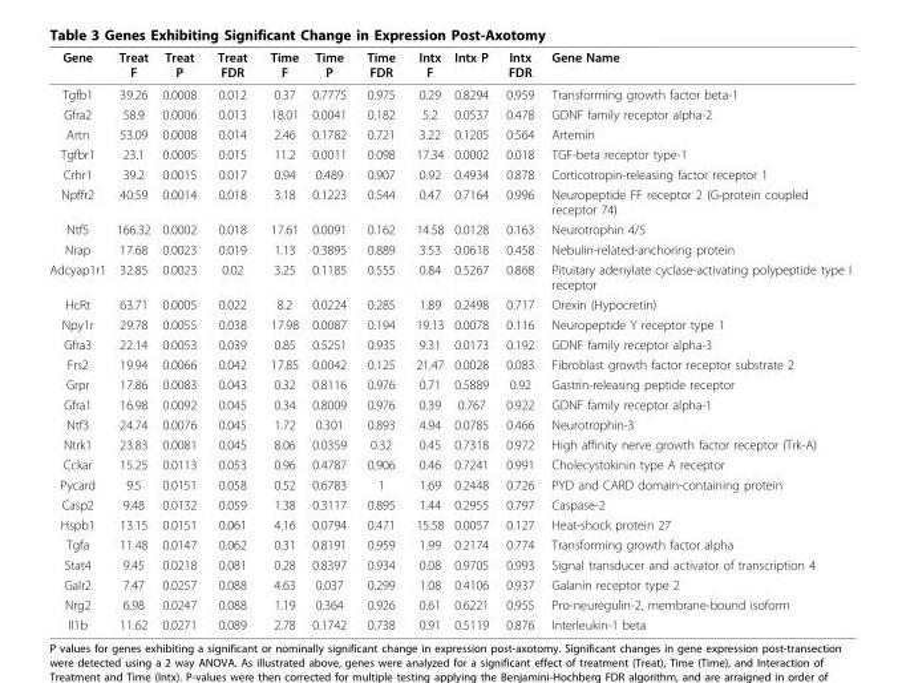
<table><thead><tr><td>Gene</td><td>Treat F</td><td>Treat P</td><td>Treat FDR</td><td>Time F</td><td>Time P</td><td>Time FDR</td><td>Intx F</td><td>Intx P</td><td>Intx FDR</td><td>Gene Name</td></tr></thead><tbody><tr><td>Tgfb1</td><td>39.26</td><td>0.0008</td><td>0.012</td><td>0.37</td><td>0.7775</td><td>0.975</td><td>0.29</td><td>0.8294</td><td>0.959</td><td>Transforming growth factor beta-1</td></tr><tr><td>Gfra2</td><td>58.9</td><td>0.0006</td><td>0.013</td><td>18.01</td><td>0.0041</td><td>0.182</td><td>5.2</td><td>0.0537</td><td>0.478</td><td>GDNF family receptor alpha-2</td></tr><tr><td>Artn</td><td>53.09</td><td>0.0008</td><td>0.014</td><td>2.46</td><td>0.1782</td><td>0.721</td><td>3.22</td><td>0.1205</td><td>0.564</td><td>Artemin</td></tr><tr><td>Tgfbr1</td><td>23.1</td><td>0.0005</td><td>0.015</td><td>11.2</td><td>0.0011</td><td>0.098</td><td>17.34</td><td>0.0002</td><td>0.018</td><td>TGF-beta receptor type-1</td></tr><tr><td>Crhr1</td><td>39.2</td><td>0.0015</td><td>0.017</td><td>0.94</td><td>0.489</td><td>0.907</td><td>0.92</td><td>0.4934</td><td>0.878</td><td>Corticotropin-releasing factor receptor 1</td></tr><tr><td>Npffr2</td><td>40.59</td><td>0.0014</td><td>0.018</td><td>3.18</td><td>0.1223</td><td>0.544</td><td>0.47</td><td>0.7164</td><td>0.996</td><td>Neuropeptide FF receptor 2 (G-protein coupled receptor 74)</td></tr><tr><td>Ntf5</td><td>166.32</td><td>0.0002</td><td>0.018</td><td>17.61</td><td>0.0091</td><td>0.162</td><td>14.58</td><td>0.0128</td><td>0.163</td><td>Neurotrophin 4/5</td></tr><tr><td>Nrap</td><td>17.68</td><td>0.0023</td><td>0.019</td><td>1.13</td><td>0.3895</td><td>0.889</td><td>3.53</td><td>0.0618</td><td>0.458</td><td>Nebulin-related-anchoring protein</td></tr><tr><td>Adcyap1r1</td><td>32.85</td><td>0.0023</td><td>0.02</td><td>3.25</td><td>0.1185</td><td>0.555</td><td>0.84</td><td>0.5267</td><td>0.868</td><td>Pituitary adenylate cyclase-activating polypeptide type I receptor</td></tr><tr><td>HcRt</td><td>63.71</td><td>0.0005</td><td>0.022</td><td>8.2</td><td>0.0224</td><td>0.285</td><td>1.89</td><td>0.2498</td><td>0.717</td><td>Orexin (Hypocretin)</td></tr><tr><td>Npy1r</td><td>29.78</td><td>0.0055</td><td>0.038</td><td>17.98</td><td>0.0087</td><td>0.194</td><td>19.13</td><td>0.0078</td><td>0.116</td><td>Neuropeptide Y receptor type 1</td></tr><tr><td>Gfra3</td><td>22.14</td><td>0.0053</td><td>0.039</td><td>0.85</td><td>0.5251</td><td>0.935</td><td>9.31</td><td>0.0173</td><td>0.192</td><td>GDNF family receptor alpha-3</td></tr><tr><td>Frs2</td><td>19.94</td><td>0.0066</td><td>0.042</td><td>17.85</td><td>0.0042</td><td>0.125</td><td>21.47</td><td>0.0028</td><td>0.083</td><td>Fibroblast growth factor receptor substrate 2</td></tr><tr><td>Grpr</td><td>17.86</td><td>0.0083</td><td>0.043</td><td>0.32</td><td>0.8116</td><td>0.976</td><td>0.71</td><td>0.5889</td><td>0.92</td><td>Gastrin-releasing peptide receptor</td></tr><tr><td>Gfra1</td><td>16.98</td><td>0.0092</td><td>0.045</td><td>0.34</td><td>0.8009</td><td>0.976</td><td>0.39</td><td>0.767</td><td>0.922</td><td>GDNF family receptor alpha-1</td></tr><tr><td>Ntf3</td><td>24.74</td><td>0.0076</td><td>0.045</td><td>1.72</td><td>0.301</td><td>0.893</td><td>4.94</td><td>0.0785</td><td>0.466</td><td>Neurotrophin-3</td></tr><tr><td>Ntrk1</td><td>23.83</td><td>0.0081</td><td>0.045</td><td>8.06</td><td>0.0359</td><td>0.32</td><td>0.45</td><td>0.7318</td><td>0.972</td><td>High affinity nerve growth factor receptor (Trk-A)</td></tr><tr><td>Cckar</td><td>15.25</td><td>0.0113</td><td>0.053</td><td>0.96</td><td>0.4787</td><td>0.906</td><td>0.46</td><td>0.7241</td><td>0.991</td><td>Cholecystokinin type A receptor</td></tr><tr><td>Pycard</td><td>9.5</td><td>0.0151</td><td>0.058</td><td>0.52</td><td>0.6783</td><td>1</td><td>1.69</td><td>0.2448</td><td>0.726</td><td>PYD and CARD domain-containing protein</td></tr><tr><td>Casp2</td><td>9.48</td><td>0.0132</td><td>0.059</td><td>1.38</td><td>0.3117</td><td>0.895</td><td>1.44</td><td>0.2955</td><td>0.797</td><td>Caspase-2</td></tr><tr><td>Hspb1</td><td>13.15</td><td>0.0151</td><td>0.061</td><td>4.16</td><td>0.0794</td><td>0.471</td><td>15.58</td><td>0.0057</td><td>0.127</td><td>Heat-shock protein 27</td></tr><tr><td>Tgfa</td><td>11.48</td><td>0.0147</td><td>0.062</td><td>0.31</td><td>0.8191</td><td>0.959</td><td>1.99</td><td>0.2174</td><td>0.774</td><td>Transforming growth factor alpha</td></tr><tr><td>Stat4</td><td>9.45</td><td>0.0218</td><td>0.081</td><td>0.28</td><td>0.8397</td><td>0.934</td><td>0.08</td><td>0.9705</td><td>0.993</td><td>Signal transducer and activator of transcription 4</td></tr><tr><td>Galr2</td><td>7.47</td><td>0.0257</td><td>0.088</td><td>4.63</td><td>0.037</td><td>0.299</td><td>1.08</td><td>0.4106</td><td>0.937</td><td>Galanin receptor type 2</td></tr><tr><td>Nrg2</td><td>6.98</td><td>0.0247</td><td>0.088</td><td>1.19</td><td>0.364</td><td>0.926</td><td>0.61</td><td>0.6221</td><td>0.955</td><td>Pro-neuregulin-2, membrane-bound isoform</td></tr><tr><td>Il1b</td><td>11.62</td><td>0.0271</td><td>0.089</td><td>2.78</td><td>0.1742</td><td>0.738</td><td>0.91</td><td>0.5119</td><td>0.876</td><td>Interleukin-1 beta</td></tr></tbody></table>